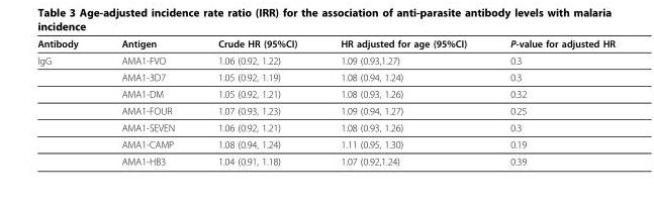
<table><thead><tr><td>Antibody</td><td>Antigen</td><td>Crude HR (95%CI)</td><td>HR adjusted for age (95%CI)</td><td>P-value for adjusted HR</td></tr></thead><tbody><tr><td rowspan="7">IgG</td><td>AMA1-FVO</td><td>1.06 (0.92, 1.22)</td><td>1.09 (0.93,1.27)</td><td>0.3</td></tr><tr><td>AMA1-3D7</td><td>1.05 (0.92, 1.19)</td><td>1.08 (0.94, 1.24)</td><td>0.3</td></tr><tr><td>AMA1-DM</td><td>1.05 (0.92, 1.21)</td><td>1.08 (0.93, 1.26)</td><td>0.32</td></tr><tr><td>AMA1-FOUR</td><td>1.07 (0.93, 1.23)</td><td>1.09 (0.94, 1.27)</td><td>0.25</td></tr><tr><td>AMA1-SEVEN</td><td>1.06 (0.92, 1.21)</td><td>1.08 (0.93, 1.26)</td><td>0.3</td></tr><tr><td>AMA1-CAMP</td><td>1.08 (0.94, 1.24)</td><td>1.11 (0.95, 1.30)</td><td>0.19</td></tr><tr><td>AMA1-HB3</td><td>1.04 (0.91, 1.18)</td><td>1.07 (0.92,1.24)</td><td>0.39</td></tr></tbody></table>